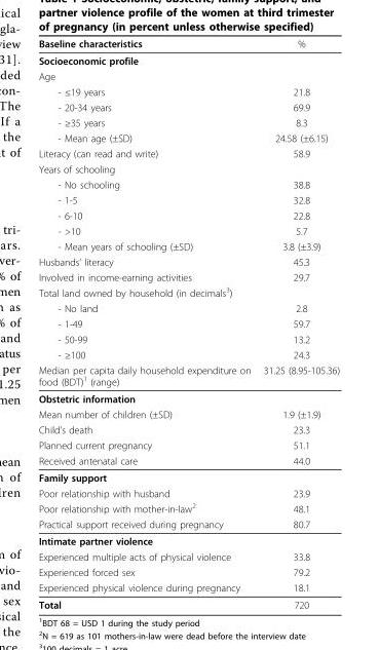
<table><thead><tr><td>Baseline characteristics</td><td>%</td></tr></thead><tbody><tr><td colspan="2">Socioeconomic profile</td></tr><tr><td colspan="2">Age</td></tr><tr><td>- ≤19 years</td><td>21.8</td></tr><tr><td>- 20-34 years</td><td>69.9</td></tr><tr><td>- ≥35 years</td><td>8.3</td></tr><tr><td>- Mean age (±SD)</td><td>24.58 (±6.15)</td></tr><tr><td>Literacy (can read and write)</td><td>58.9</td></tr><tr><td colspan="2">Years of schooling</td></tr><tr><td>- No schooling</td><td>38.8</td></tr><tr><td>- 1-5</td><td>32.8</td></tr><tr><td>- 6-10</td><td>22.8</td></tr><tr><td>- &gt;10</td><td>5.7</td></tr><tr><td>- Mean years of schooling (±SD)</td><td>3.8 (±3.9)</td></tr><tr><td>Husbands’ literacy</td><td>45.3</td></tr><tr><td>Involved in income-earning activities</td><td>29.7</td></tr><tr><td colspan="2">Total land owned by household (in decimals<sup>3</sup>)</td></tr><tr><td>- No land</td><td>2.8</td></tr><tr><td>- 1-49</td><td>59.7</td></tr><tr><td>- 50-99</td><td>13.2</td></tr><tr><td>- ≥100</td><td>24.3</td></tr><tr><td>Median per capita daily household expenditure on food (BDT)<sup>1</sup> (range)</td><td>31.25 (8.95-105.36)</td></tr><tr><td colspan="2">Obstetric information</td></tr><tr><td>Mean number of children (±SD)</td><td>1.9 (±1.9)</td></tr><tr><td>Child’s death</td><td>23.3</td></tr><tr><td>Planned current pregnancy</td><td>51.1</td></tr><tr><td>Received antenatal care</td><td>44.0</td></tr><tr><td colspan="2">Family support</td></tr><tr><td>Poor relationship with husband</td><td>23.9</td></tr><tr><td>Poor relationship with mother-in-law<sup>2</sup></td><td>48.1</td></tr><tr><td>Practical support received during pregnancy</td><td>80.7</td></tr><tr><td colspan="2">Intimate partner violence</td></tr><tr><td>Experienced multiple acts of physical violence</td><td>33.8</td></tr><tr><td>Experienced forced sex</td><td>79.2</td></tr><tr><td>Experienced physical violence during pregnancy</td><td>18.1</td></tr><tr><td>Total</td><td>720</td></tr></tbody></table>